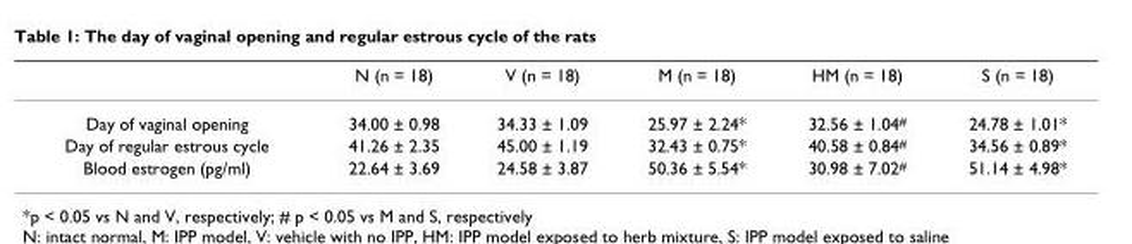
<table><thead><tr><td></td><td>N (n = 18)</td><td>V (n = 18)</td><td>M (n = 18)</td><td>HM (n = 18)</td><td>S (n = 18)</td></tr></thead><tbody><tr><td>Day of vaginal opening</td><td>34.00 ± 0.98</td><td>34.33 ± 1.09</td><td>25.97 ± 2.24*</td><td>32.56 ± 1.04<sup>#</sup></td><td>24.78 ± 1.01*</td></tr><tr><td>Day of regular estrous cycle</td><td>41.26 ± 2.35</td><td>45.00 ± 1.19</td><td>32.43 ± 0.75*</td><td>40.58 ± 0.84<sup>#</sup></td><td>34.56 ± 0.89*</td></tr><tr><td>Blood estrogen (pg/ml)</td><td>22.64 ± 3.69</td><td>24.58 ± 3.87</td><td>50.36 ± 5.54*</td><td>30.98 ± 7.02<sup>#</sup></td><td>51.14 ± 4.98*</td></tr></tbody></table>